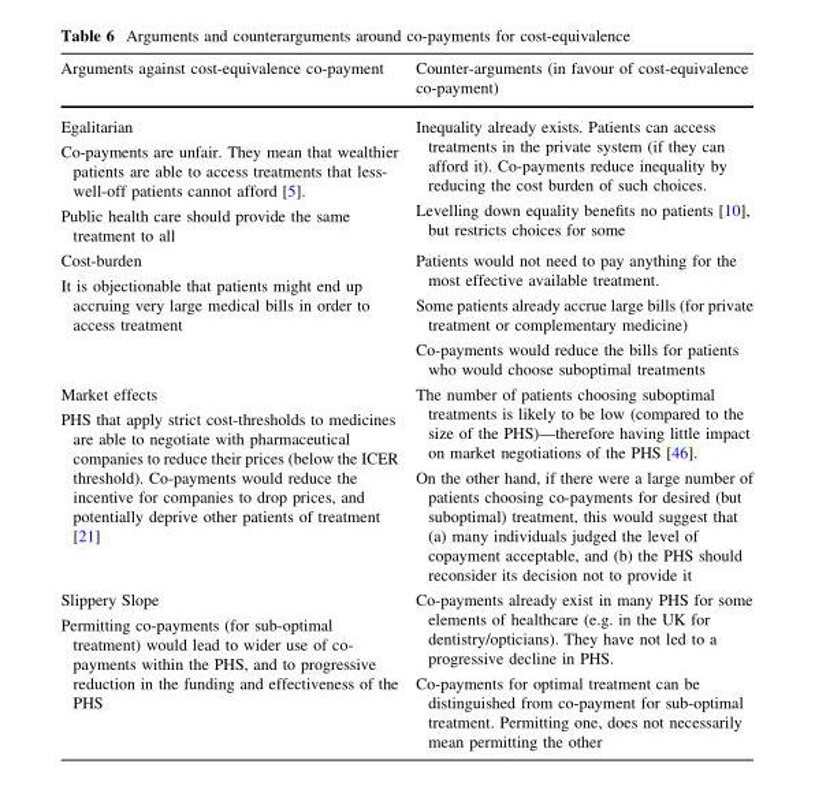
<table><thead><tr><td>Arguments against cost-equivalence co-payment</td><td>Counter-arguments (in favour of cost-equivalence co-payment)</td></tr></thead><tbody><tr><td>Egalitarian Co-payments are unfair. They mean that wealthier patients are able to access treatments that less- well-off patients cannot afford [5]. Public health care should provide the same treatment to all</td><td>Inequality already exists. Patients can access treatments in the private system (if they can afford it). Co-payments reduce inequality by reducing the cost burden of such choices. Levelling down equality benefits no patients [10], but restricts choices for some</td></tr><tr><td>Cost-burden It is objectionable that patients might end up accruing very large medical bills in order to access treatment</td><td>Patients would not need to pay anything for the most effective available treatment. Some patients already accrue large bills (for private treatment or complementary medicine) Co-payments would reduce the bills for patients who would choose suboptimal treatments</td></tr><tr><td>Market effects PHS that apply strict cost-thresholds to medicines are able to negotiate with pharmaceutical companies to reduce their prices (below the ICER threshold). Co-payments would reduce the incentive for companies to drop prices, and potentially deprive other patients of treatment [21]</td><td>The number of patients choosing suboptimal treatments is likely to be low (compared to the size of the PHS)—therefore having little impact on market negotiations of the PHS [46]. On the other hand, if there were a large number of patients choosing co-payments for desired (but suboptimal) treatment, this would suggest that (a) many individuals judged the level of copayment acceptable, and (b) the PHS should reconsider its decision not to provide it</td></tr><tr><td>Slippery Slope Permitting co-payments (for sub-optimal treatment) would lead to wider use of co- payments within the PHS, and to progressive reduction in the funding and effectiveness of the PHS</td><td>Co-payments already exist in many PHS for some elements of healthcare (e.g. in the UK for dentistry/opticians). They have not led to a progressive decline in PHS. Co-payments for optimal treatment can be distinguished from co-payment for sub-optimal treatment. Permitting one, does not necessarily mean permitting the other</td></tr></tbody></table>